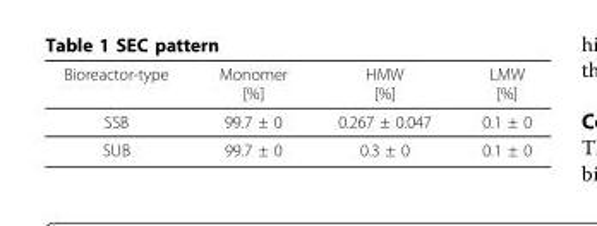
<table><thead><tr><td>Bioreactor-type</td><td>Monomer [%]</td><td>HMW [%]</td><td>LMW [%]</td></tr></thead><tbody><tr><td>SSB</td><td>99.7 ± 0</td><td>0.267 ± 0.047</td><td>0.1 ± 0</td></tr><tr><td>SUB</td><td>99.7 ± 0</td><td>0.3 ± 0</td><td>0.1 ± 0</td></tr></tbody></table>